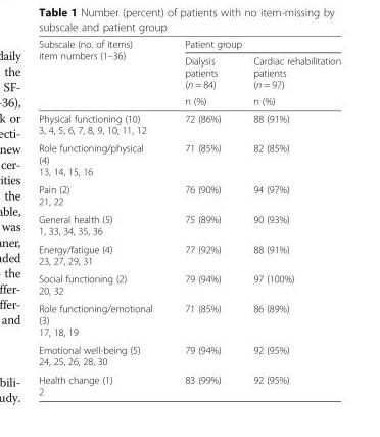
<table><thead><tr><td rowspan="3">Subscale (no. of items) item numbers (1–36)</td><td colspan="2">Patient group</td></tr><tr><td rowspan="2">Dialysis patients (n = 84) n (%)</td><td rowspan="2">Cardiac rehabilitation patients (n = 97) n (%)</td></tr><tr></tr></thead><tbody><tr><td>Physical functioning (10) 3, 4, 5, 6, 7, 8, 9, 10, 11, 12</td><td>72 (86%)</td><td>88 (91%)</td></tr><tr><td>Role functioning/physical (4) 13, 14, 15, 16</td><td>71 (85%)</td><td>82 (85%)</td></tr><tr><td>Pain (2) 21, 22</td><td>76 (90%)</td><td>94 (97%)</td></tr><tr><td>General health (5) 1, 33, 34, 35, 36</td><td>75 (89%)</td><td>90 (93%)</td></tr><tr><td>Energy/fatigue (4) 23, 27, 29, 31</td><td>77 (92%)</td><td>88 (91%)</td></tr><tr><td>Social functioning (2) 20, 32</td><td>79 (94%)</td><td>97 (100%)</td></tr><tr><td>Role functioning/emotional (3) 17, 18, 19</td><td>71 (85%)</td><td>86 (89%)</td></tr><tr><td>Emotional well-being (5) 24, 25, 26, 28, 30</td><td>79 (94%)</td><td>92 (95%)</td></tr><tr><td>Health change (1) 2</td><td>83 (99%)</td><td>92 (95%)</td></tr></tbody></table>